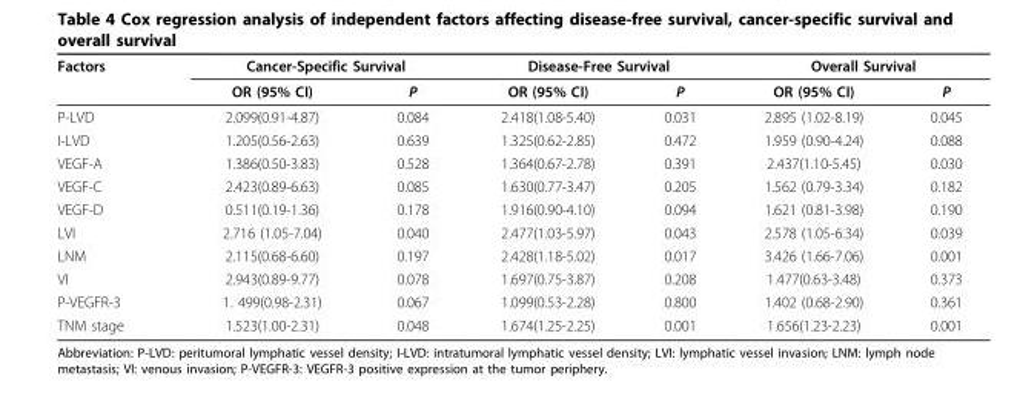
<table><thead><tr><td rowspan="2">Factors</td><td colspan="2">Cancer-Specific Survival</td><td colspan="2">Disease-Free Survival</td><td colspan="2">Overall Survival</td></tr><tr><td>OR (95% CI)</td><td>P</td><td>OR (95% CI)</td><td>P</td><td>OR (95% CI)</td><td>P</td></tr></thead><tbody><tr><td>P-LVD</td><td>2.099(0.91-4.87)</td><td>0.084</td><td>2.418(1.08-5.40)</td><td>0.031</td><td>2.895 (1.02-8.19)</td><td>0.045</td></tr><tr><td>I-LVD</td><td>1.205(0.56-2.63)</td><td>0.639</td><td>1.325(0.62-2.85)</td><td>0.472</td><td>1.959 (0.90-4.24)</td><td>0.088</td></tr><tr><td>VEGF-A</td><td>1.386(0.50-3.83)</td><td>0.528</td><td>1.364(0.67-2.78)</td><td>0.391</td><td>2.437(1.10-5.45)</td><td>0.030</td></tr><tr><td>VEGF-C</td><td>2.423(0.89-6.63)</td><td>0.085</td><td>1.630(0.77-3.47)</td><td>0.205</td><td>1.562 (0.79-3.34)</td><td>0.182</td></tr><tr><td>VEGF-D</td><td>0.511(0.19-1.36)</td><td>0.178</td><td>1.916(0.90-4.10)</td><td>0.094</td><td>1.621 (0.81-3.98)</td><td>0.190</td></tr><tr><td>LVI</td><td>2.716 (1.05-7.04)</td><td>0.040</td><td>2.477(1.03-5.97)</td><td>0.043</td><td>2.578 (1.05-6.34)</td><td>0.039</td></tr><tr><td>LNM</td><td>2.115(0.68-6.60)</td><td>0.197</td><td>2.428(1.18-5.02)</td><td>0.017</td><td>3.426 (1.66-7.06)</td><td>0.001</td></tr><tr><td>VI</td><td>2.943(0.89-9.77)</td><td>0.078</td><td>1.697(0.75-3.87)</td><td>0.208</td><td>1.477(0.63-3.48)</td><td>0.373</td></tr><tr><td>P-VEGFR-3</td><td>1. 499(0.98-2.31)</td><td>0.067</td><td>1.099(0.53-2.28)</td><td>0.800</td><td>1.402 (0.68-2.90)</td><td>0.361</td></tr><tr><td>TNM stage</td><td>1.523(1.00-2.31)</td><td>0.048</td><td>1.674(1.25-2.25)</td><td>0.001</td><td>1.656(1.23-2.23)</td><td>0.001</td></tr></tbody></table>